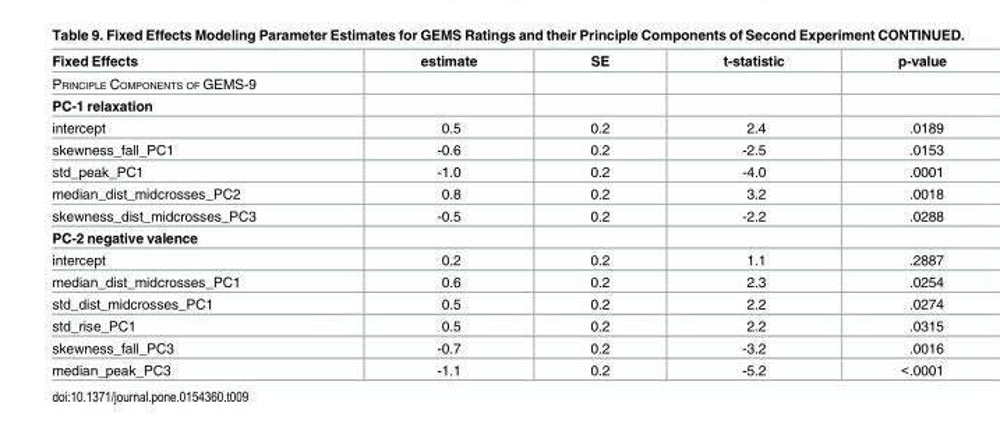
<table><thead><tr><td>Fixed Effects</td><td>estimate</td><td>SE</td><td>t-statistic</td><td>p-value</td></tr></thead><tbody><tr><td colspan="5">PRINCIPLE COMPONENTS OF GEMS-9</td></tr><tr><td colspan="5">PC-1 relaxation</td></tr><tr><td>intercept</td><td>0.5</td><td>0.2</td><td>2.4</td><td>.0189</td></tr><tr><td>skewness_fall_PC1</td><td>-0.6</td><td>0.2</td><td>-2.5</td><td>.0153</td></tr><tr><td>std_peak_PC1</td><td>-1.0</td><td>0.2</td><td>-4.0</td><td>.0001</td></tr><tr><td>median_dist_midcrosses_PC2</td><td>0.8</td><td>0.2</td><td>3.2</td><td>.0018</td></tr><tr><td>skewness_dist_midcrosses_PC3</td><td>-0.5</td><td>0.2</td><td>-2.2</td><td>.0288</td></tr><tr><td colspan="5">PC-2 negative valence</td></tr><tr><td>intercept</td><td>0.2</td><td>0.2</td><td>1.1</td><td>.2887</td></tr><tr><td>median_dist_midcrosses_PC1</td><td>0.6</td><td>0.2</td><td>2.3</td><td>.0254</td></tr><tr><td>std_dist_midcrosses_PC1</td><td>0.5</td><td>0.2</td><td>2.2</td><td>.0274</td></tr><tr><td>std_rise_PC1</td><td>0.5</td><td>0.2</td><td>2.2</td><td>.0315</td></tr><tr><td>skewness_fall_PC3</td><td>-0.7</td><td>0.2</td><td>-3.2</td><td>.0016</td></tr><tr><td>median_peak_PC3</td><td>-1.1</td><td>0.2</td><td>-5.2</td><td>&lt;.0001</td></tr></tbody></table>